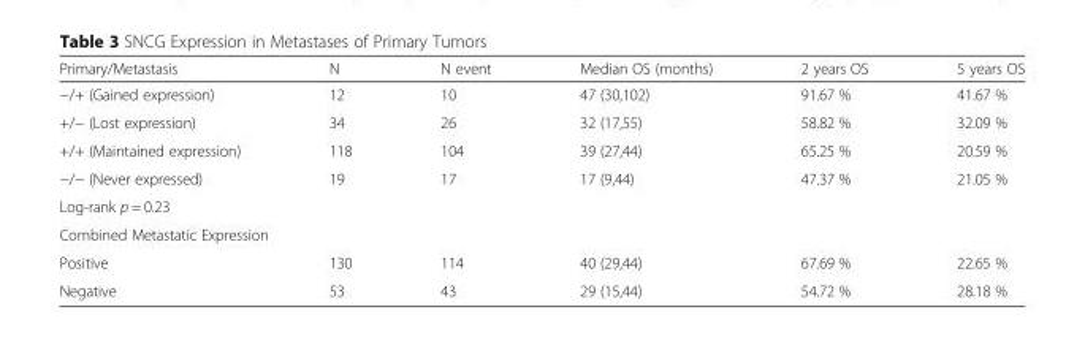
<table><thead><tr><td>Primary/Metastasis</td><td>N</td><td>N event</td><td>Median OS (months)</td><td>2 years OS</td><td>5 years OS</td></tr></thead><tbody><tr><td>−/+ (Gained expression)</td><td>12</td><td>10</td><td>47 (30,102)</td><td>91.67 %</td><td>41.67 %</td></tr><tr><td>+/− (Lost expression)</td><td>34</td><td>26</td><td>32 (17,55)</td><td>58.82 %</td><td>32.09 %</td></tr><tr><td>+/+ (Maintained expression)</td><td>118</td><td>104</td><td>39 (27,44)</td><td>65.25 %</td><td>20.59 %</td></tr><tr><td>−/− (Never expressed)</td><td>19</td><td>17</td><td>17 (9,44)</td><td>47.37 %</td><td>21.05 %</td></tr><tr><td colspan="6">Log-rank p = 0.23</td></tr><tr><td colspan="6">Combined Metastatic Expression</td></tr><tr><td>Positive</td><td>130</td><td>114</td><td>40 (29,44)</td><td>67.69 %</td><td>22.65 %</td></tr><tr><td>Negative</td><td>53</td><td>43</td><td>29 (15,44)</td><td>54.72 %</td><td>28.18 %</td></tr></tbody></table>